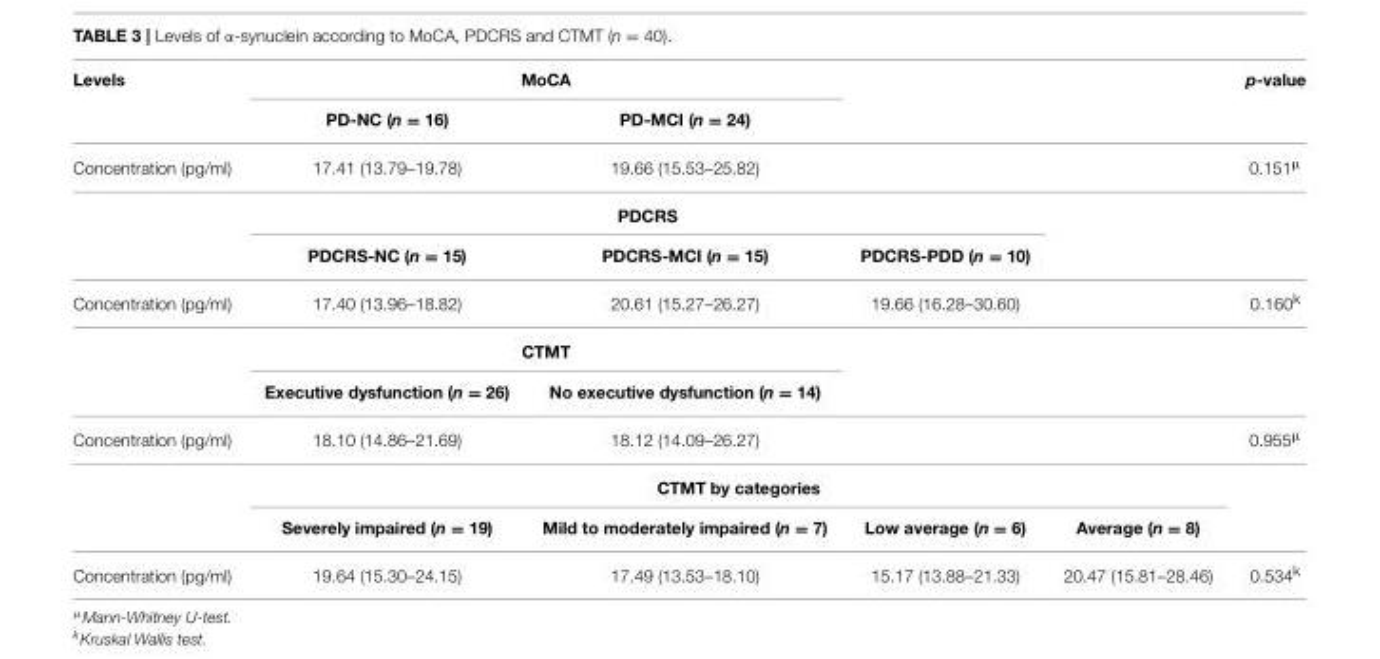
<table><thead><tr><td rowspan="2">Levels</td><td colspan="2">MoCA</td><td rowspan="2"></td><td rowspan="2"></td><td rowspan="2">p-value</td></tr><tr><td>PD-NC (n = 16)</td><td>PD-MCI (n = 24)</td></tr></thead><tbody><tr><td rowspan="3">Concentration (pg/ml)</td><td>17.41 (13.79–19.78)</td><td>19.66 (15.53–25.82)</td><td></td><td></td><td>0.151<sup>µ</sup></td></tr><tr><td colspan="3">PDCRS</td><td></td><td></td></tr><tr><td>PDCRS-NC (n = 15)</td><td>PDCRS-MCI (n = 15)</td><td>PDCRS-PDD (n = 10)</td><td></td><td></td></tr><tr><td rowspan="3">Concentration (pg/ml)</td><td>17.40 (13.96–18.82)</td><td>20.61 (15.27–26.27)</td><td>19.66 (16.28–30.60)</td><td></td><td>0.160<sup>k</sup></td></tr><tr><td colspan="2">CTMT</td><td></td><td></td><td></td></tr><tr><td>Executive dysfunction (n = 26)</td><td>No executive dysfunction (n = 14)</td><td></td><td></td><td></td></tr><tr><td rowspan="3">Concentration (pg/ml)</td><td>18.10 (14.86–21.69)</td><td>18.12 (14.09–26.27)</td><td></td><td></td><td>0.955<sup>µ</sup></td></tr><tr><td colspan="4">CTMT by categories</td><td></td></tr><tr><td>Severely impaired (n = 19)</td><td>Mild to moderately impaired (n = 7)</td><td>Low average (n = 6)</td><td>Average (n = 8)</td><td></td></tr><tr><td>Concentration (pg/ml)</td><td>19.64 (15.30–24.15)</td><td>17.49 (13.53–18.10)</td><td>15.17 (13.88–21.33)</td><td>20.47 (15.81–28.46)</td><td>0.534<sup>k</sup></td></tr></tbody></table>